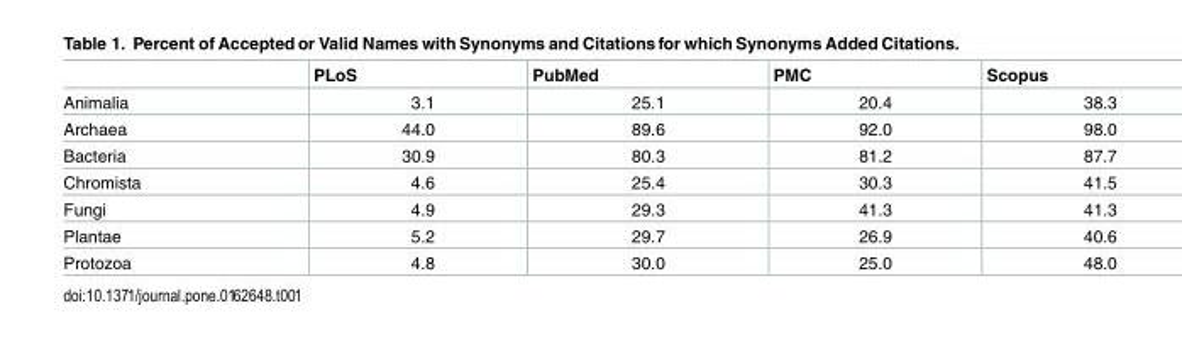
<table><thead><tr><td></td><td>PLoS</td><td>PubMed</td><td>PMC</td><td>Scopus</td></tr></thead><tbody><tr><td>Animalia</td><td>3.1</td><td>25.1</td><td>20.4</td><td>38.3</td></tr><tr><td>Archaea</td><td>44.0</td><td>89.6</td><td>92.0</td><td>98.0</td></tr><tr><td>Bacteria</td><td>30.9</td><td>80.3</td><td>81.2</td><td>87.7</td></tr><tr><td>Chromista</td><td>4.6</td><td>25.4</td><td>30.3</td><td>41.5</td></tr><tr><td>Fungi</td><td>4.9</td><td>29.3</td><td>41.3</td><td>41.3</td></tr><tr><td>Plantae</td><td>5.2</td><td>29.7</td><td>26.9</td><td>40.6</td></tr><tr><td>Protozoa</td><td>4.8</td><td>30.0</td><td>25.0</td><td>48.0</td></tr></tbody></table>